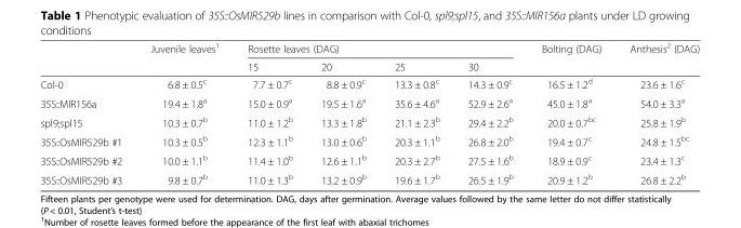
<table><thead><tr><td rowspan="2"></td><td rowspan="2">Juvenile leaves<sup>1</sup></td><td colspan="4">Rosette leaves (DAG)</td><td rowspan="2">Bolting (DAG)</td><td rowspan="2">Anthesis<sup>2</sup> (DAG)</td></tr><tr><td>15</td><td>20</td><td>25</td><td>30</td></tr></thead><tbody><tr><td>Col-0</td><td>6.8 ± 0.5<sup>c</sup></td><td>7.7 ± 0.7<sup>c</sup></td><td>8.8 ± 0.9<sup>c</sup></td><td>13.3 ± 0.8<sup>c</sup></td><td>14.3 ± 0.9<sup>c</sup></td><td>16.5 ± 1.2<sup>d</sup></td><td>23.6 ± 1.6<sup>c</sup></td></tr><tr><td>35S::MIR156a</td><td>19.4 ± 1.8<sup>a</sup></td><td>15.0 ± 0.9<sup>a</sup></td><td>19.5 ± 1.6<sup>a</sup></td><td>35.6 ± 4.6<sup>a</sup></td><td>52.9 ± 2.6<sup>a</sup></td><td>45.0 ± 1.8<sup>a</sup></td><td>54.0 ± 3.3<sup>a</sup></td></tr><tr><td>spl9;spl15</td><td>10.3 ± 0.7<sup>b</sup></td><td>11.0 ± 1.2<sup>b</sup></td><td>13.3 ± 1.8<sup>b</sup></td><td>21.1 ± 2.3<sup>b</sup></td><td>29.4 ± 2.2<sup>b</sup></td><td>20.0 ± 0.7<sup>bc</sup></td><td>25.8 ± 1.9<sup>b</sup></td></tr><tr><td>35S::OsMIR529b #1</td><td>10.3 ± 0.5<sup>b</sup></td><td>12.3 ± 1.1<sup>b</sup></td><td>13.0 ± 0.6<sup>b</sup></td><td>20.3 ± 1.1<sup>b</sup></td><td>26.8 ± 2.0<sup>b</sup></td><td>19.4 ± 0.7<sup>c</sup></td><td>24.8 ± 1.5<sup>bc</sup></td></tr><tr><td>35S::OsMIR529b #2</td><td>10.0 ± 1.1<sup>b</sup></td><td>11.4 ± 1.0<sup>b</sup></td><td>12.6 ± 1.1<sup>b</sup></td><td>20.3 ± 2.7<sup>b</sup></td><td>27.5 ± 1.6<sup>b</sup></td><td>18.9 ± 0.9<sup>c</sup></td><td>23.4 ± 1.3<sup>c</sup></td></tr><tr><td>35S::OsMIR529b #3</td><td>9.8 ± 0.7<sup>b</sup></td><td>11.0 ± 1.3<sup>b</sup></td><td>13.2 ± 0.9<sup>b</sup></td><td>19.6 ± 1.7<sup>b</sup></td><td>26.5 ± 1.9<sup>b</sup></td><td>20.9 ± 1.2<sup>b</sup></td><td>26.8 ± 2.2<sup>b</sup></td></tr></tbody></table>